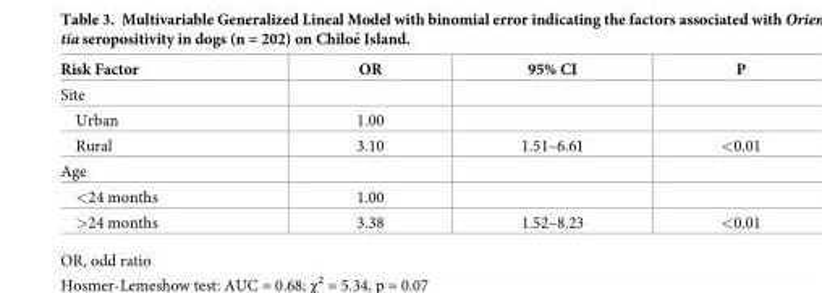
<table><thead><tr><td>Risk Factor</td><td>OR</td><td>95% CI</td><td>P</td></tr></thead><tbody><tr><td colspan="4">Site</td></tr><tr><td>Urban</td><td>1.00</td><td></td><td></td></tr><tr><td>Rural</td><td>3.10</td><td>1.51–6.61</td><td>&lt;0.01</td></tr><tr><td colspan="4">Age</td></tr><tr><td>&lt;24 months</td><td>1.00</td><td></td><td></td></tr><tr><td>&gt;24 months</td><td>3.38</td><td>1.52–8.23</td><td>&lt;0.01</td></tr></tbody></table>